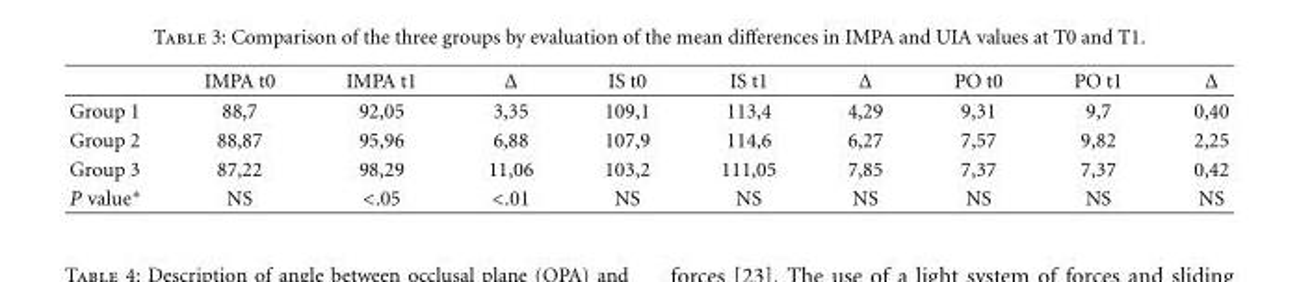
<table><thead><tr><td></td><td>IMPA t0</td><td>IMPA t1</td><td>Δ</td><td>IS t0</td><td>IS t1</td><td>Δ</td><td>PO t0</td><td>PO t1</td><td>Δ</td></tr></thead><tbody><tr><td>Group 1</td><td>88,7</td><td>92,05</td><td>3,35</td><td>109,1</td><td>113,4</td><td>4,29</td><td>9,31</td><td>9,7</td><td>0,40</td></tr><tr><td>Group 2</td><td>88,87</td><td>95,96</td><td>6,88</td><td>107,9</td><td>114,6</td><td>6,27</td><td>7,57</td><td>9,82</td><td>2,25</td></tr><tr><td>Group 3</td><td>87,22</td><td>98,29</td><td>11,06</td><td>103,2</td><td>111,05</td><td>7,85</td><td>7,37</td><td>7,37</td><td>0,42</td></tr><tr><td>P value∗</td><td>NS</td><td>&lt;.05</td><td>&lt;.01</td><td>NS</td><td>NS</td><td>NS</td><td>NS</td><td>NS</td><td>NS</td></tr></tbody></table>